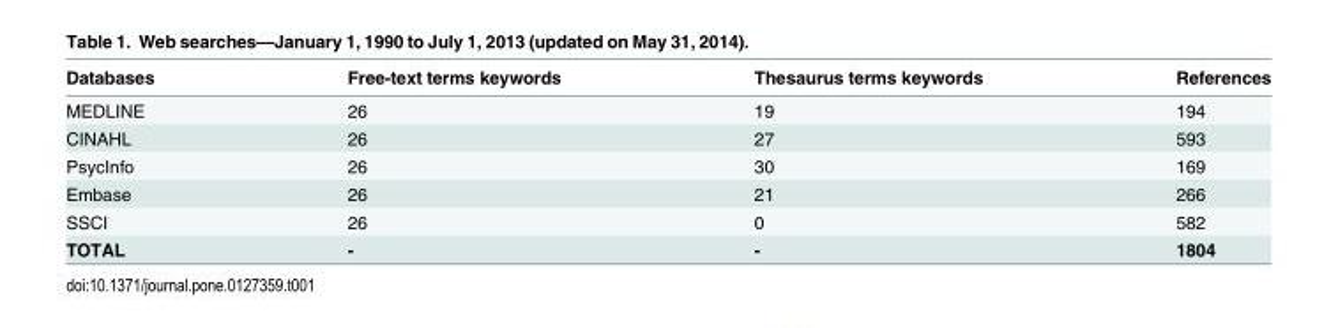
<table><thead><tr><td>Databases</td><td>Free-text terms keywords</td><td>Thesaurus terms keywords</td><td>References</td></tr></thead><tbody><tr><td>MEDLINE</td><td>26</td><td>19</td><td>194</td></tr><tr><td>CINAHL</td><td>26</td><td>27</td><td>593</td></tr><tr><td>PsycInfo</td><td>26</td><td>30</td><td>169</td></tr><tr><td>Embase</td><td>26</td><td>21</td><td>266</td></tr><tr><td>SSCI</td><td>26</td><td>0</td><td>582</td></tr><tr><td>TOTAL</td><td>-</td><td>-</td><td>1804</td></tr></tbody></table>